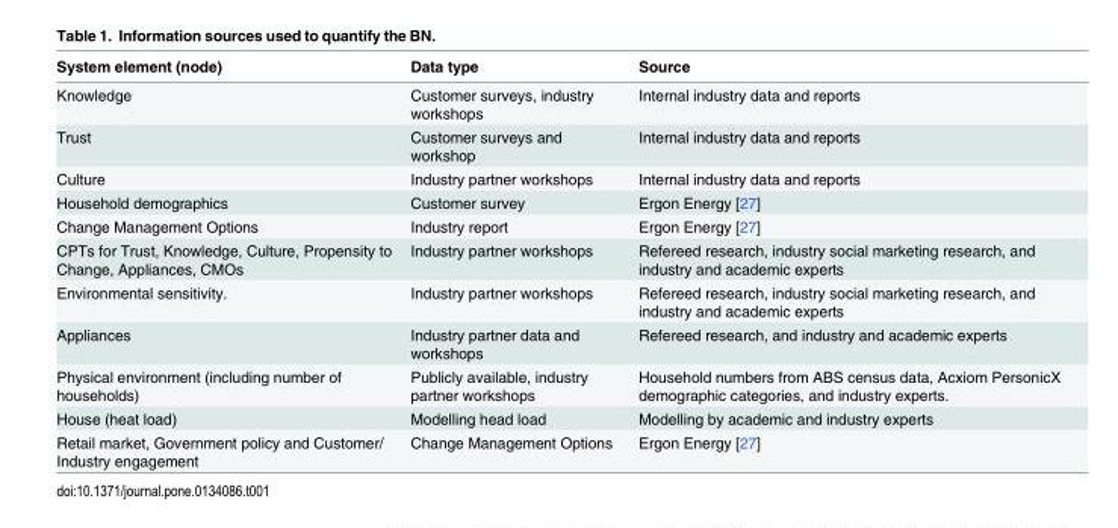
<table><thead><tr><td>System element (node)</td><td>Data type</td><td>Source</td></tr></thead><tbody><tr><td>Knowledge</td><td>Customer surveys, industry workshops</td><td>Internal industry data and reports</td></tr><tr><td>Trust</td><td>Customer surveys and workshop</td><td>Internal industry data and reports</td></tr><tr><td>Culture</td><td>Industry partner workshops</td><td>Internal industry data and reports</td></tr><tr><td>Household demographics</td><td>Customer survey</td><td>Ergon Energy [27]</td></tr><tr><td>Change Management Options</td><td>Industry report</td><td>Ergon Energy [27]</td></tr><tr><td>CPTs for Trust, Knowledge, Culture, Propensity to Change, Appliances, CMOs</td><td>Industry partner workshops</td><td>Refereed research, industry social marketing research, and industry and academic experts</td></tr><tr><td>Environmental sensitivity.</td><td>Industry partner workshops</td><td>Refereed research, industry social marketing research, and industry and academic experts</td></tr><tr><td>Appliances</td><td>Industry partner data and workshops</td><td>Refereed research, and industry and academic experts</td></tr><tr><td>Physical environment (including number of households)</td><td>Publicly available, industry partner workshops</td><td>Household numbers from ABS census data, Acxiom PersonicX demographic categories, and industry experts.</td></tr><tr><td>House (heat load)</td><td>Modelling head load</td><td>Modelling by academic and industry experts</td></tr><tr><td>Retail market, Government policy and Customer/ Industry engagement</td><td>Change Management Options</td><td>Ergon Energy [27]</td></tr></tbody></table>